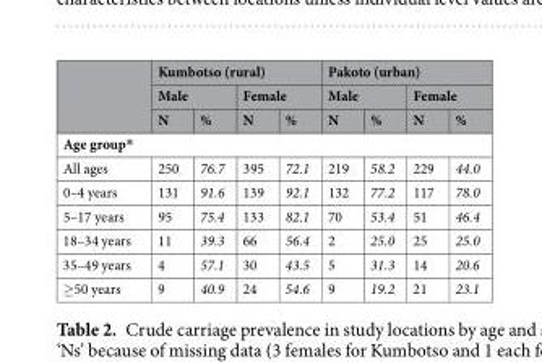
<table><thead><tr><td rowspan="3"></td><td colspan="4">Kumbotso (rural)</td><td colspan="4">Pakoto (urban)</td></tr><tr><td colspan="2">Male</td><td colspan="2">Female</td><td colspan="2">Male</td><td colspan="2">Female</td></tr><tr><td>N</td><td>%</td><td>N</td><td>%</td><td>N</td><td>%</td><td>N</td><td>%</td></tr></thead><tbody><tr><td colspan="9">Age group*</td></tr><tr><td>All ages</td><td>250</td><td>76.7</td><td>395</td><td>72.1</td><td>219</td><td>58.2</td><td>229</td><td>44.0</td></tr><tr><td>0–4 years</td><td>131</td><td>91.6</td><td>139</td><td>92.1</td><td>132</td><td>77.2</td><td>117</td><td>78.0</td></tr><tr><td>5–17 years</td><td>95</td><td>75.4</td><td>133</td><td>82.1</td><td>70</td><td>53.4</td><td>51</td><td>46.4</td></tr><tr><td>18–34 years</td><td>11</td><td>39.3</td><td>66</td><td>56.4</td><td>2</td><td>25.0</td><td>25</td><td>25.0</td></tr><tr><td>35–49 years</td><td>4</td><td>57.1</td><td>30</td><td>43.5</td><td>5</td><td>31.3</td><td>14</td><td>20.6</td></tr><tr><td>≥50 years</td><td>9</td><td>40.9</td><td>24</td><td>54.6</td><td>9</td><td>19.2</td><td>21</td><td>23.1</td></tr></tbody></table>